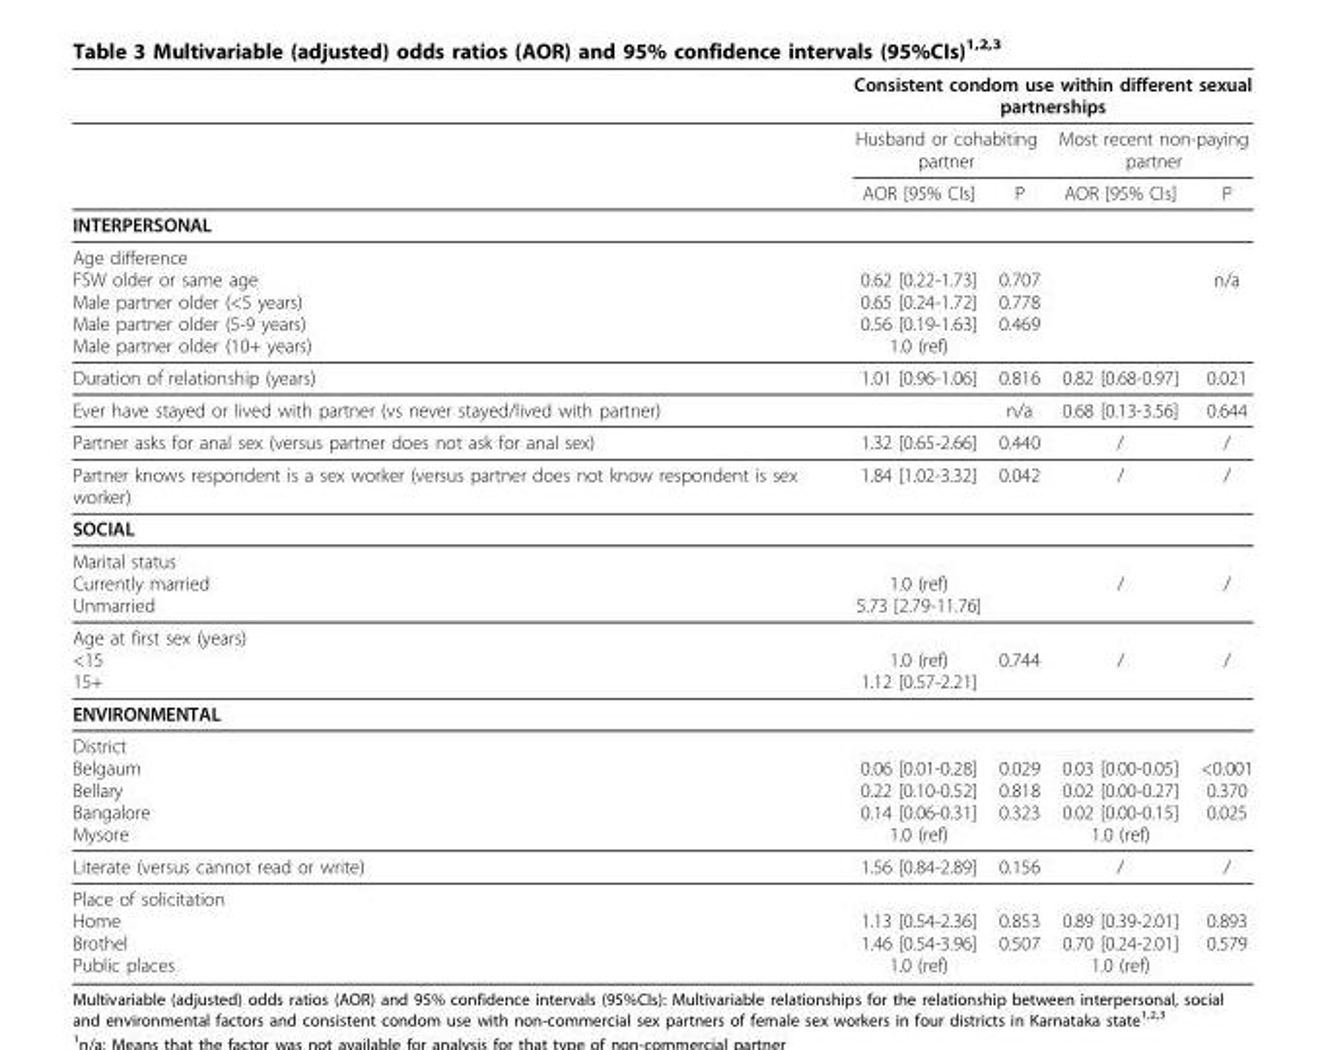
<table><thead><tr><td rowspan="3"></td><td colspan="4">Consistent condom use within different sexual partnerships</td></tr><tr><td colspan="2">Husband or cohabiting partner</td><td colspan="2">Most recent non-paying partner</td></tr><tr><td>AOR [95% CIs]</td><td>P</td><td>AOR [95% CIs]</td><td>P</td></tr></thead><tbody><tr><td colspan="5">INTERPERSONAL</td></tr><tr><td>Age difference FSW older or same age Male partner older (&lt;5 years) Male partner older (5-9 years) Male partner older (10+ years)</td><td>0.62 [0.22-1.73] 0.65 [0.24-1.72] 0.56 [0.19-1.63] 1.0 (ref)</td><td>0.707 0.778 0.469</td><td></td><td>n/a</td></tr><tr><td>Duration of relationship (years)</td><td>1.01 [0.96-1.06]</td><td>0.816</td><td>0.82 [0.68-0.97]</td><td>0.021</td></tr><tr><td>Ever have stayed or lived with partner (vs never stayed/lived with partner)</td><td></td><td>n/a</td><td>0.68 [0.13-3.56]</td><td>0.644</td></tr><tr><td>Partner asks for anal sex (versus partner does not ask for anal sex)</td><td>1.32 [0.65-2.66]</td><td>0.440</td><td>/</td><td>/</td></tr><tr><td>Partner knows respondent is a sex worker (versus partner does not know respondent is sex worker)</td><td>1.84 [1.02-3.32]</td><td>0.042</td><td>/</td><td>/</td></tr><tr><td colspan="5">SOCIAL</td></tr><tr><td>Marital status Currently married Unmarried</td><td>1.0 (ref) 5.73 [2.79-11.76]</td><td></td><td>/</td><td>/</td></tr><tr><td>Age at first sex (years) &lt;15 15+</td><td>1.0 (ref) 1.12 [0.57-2.21]</td><td>0.744</td><td>/</td><td>/</td></tr><tr><td colspan="5">ENVIRONMENTAL</td></tr><tr><td>District Belgaum Bellary Bangalore Mysore</td><td>0.06 [0.01-0.28] 0.22 [0.10-0.52] 0.14 [0.06-0.31] 1.0 (ref)</td><td>0.029 0.818 0.323</td><td>0.03 [0.00-0.05] 0.02 [0.00-0.27] 0.02 [0.00-0.15] 1.0 (ref)</td><td>&lt;0.001 0.370 0.025</td></tr><tr><td>Literate (versus cannot read or write)</td><td>1.56 [0.84-2.89]</td><td>0.156</td><td>/</td><td>/</td></tr><tr><td>Place of solicitation Home Brothel Public places</td><td>1.13 [0.54-2.36] 1.46 [0.54-3.96] 1.0 (ref)</td><td>0.853 0.507</td><td>0.89 [0.39-2.01] 0.70 [0.24-2.01] 1.0 (ref)</td><td>0.893 0.579</td></tr></tbody></table>